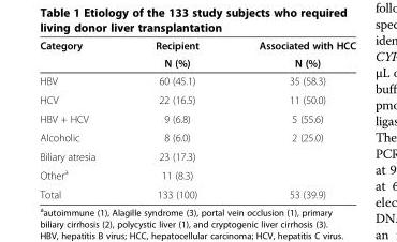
<table><thead><tr><td>Category</td><td>Recipient N (%)</td><td>Associated with HCC N (%)</td></tr></thead><tbody><tr><td>HBV</td><td>60 (45.1)</td><td>35 (58.3)</td></tr><tr><td>HCV</td><td>22 (16.5)</td><td>11 (50.0)</td></tr><tr><td>HBV + HCV</td><td>9 (6.8)</td><td>5 (55.6)</td></tr><tr><td>Alcoholic</td><td>8 (6.0)</td><td>2 (25.0)</td></tr><tr><td>Biliary atresia</td><td>23 (17.3)</td><td></td></tr><tr><td>Other<sup>a</sup></td><td>11 (8.3)</td><td></td></tr><tr><td>Total</td><td>133 (100)</td><td>53 (39.9)</td></tr></tbody></table>